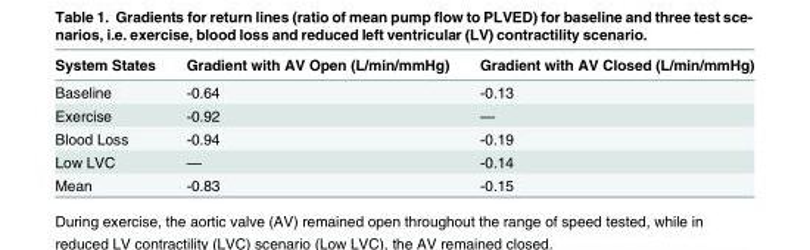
<table><thead><tr><td>System States</td><td>Gradient with AV Open (L/min/mmHg)</td><td>Gradient with AV Closed (L/min/mmHg)</td></tr></thead><tbody><tr><td>Baseline</td><td>-0.64</td><td>-0.13</td></tr><tr><td>Exercise</td><td>-0.92</td><td>—</td></tr><tr><td>Blood Loss</td><td>-0.94</td><td>-0.19</td></tr><tr><td>Low LVC</td><td>—</td><td>-0.14</td></tr><tr><td>Mean</td><td>-0.83</td><td>-0.15</td></tr></tbody></table>